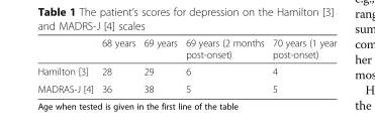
<table><thead><tr><td></td><td>68 years</td><td>69 years</td><td>69 years (2 months post-onset)</td><td>70 years (1 year post-onset)</td></tr></thead><tbody><tr><td>Hamilton [3]</td><td>28</td><td>29</td><td>6</td><td>4</td></tr><tr><td>MADRAS-J [4]</td><td>36</td><td>38</td><td>5</td><td>5</td></tr></tbody></table>